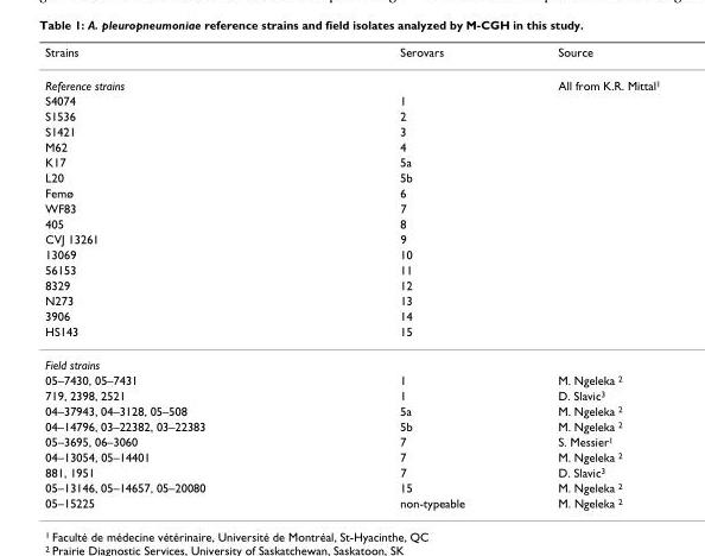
<table><thead><tr><td>Strains</td><td>Serovars</td><td>Source</td></tr></thead><tbody><tr><td>Reference strains</td><td></td><td>All from K.R. Mittal<sup>1</sup></td></tr><tr><td>S4074</td><td>1</td><td></td></tr><tr><td>S1536</td><td>2</td><td></td></tr><tr><td>S1421</td><td>3</td><td></td></tr><tr><td>M62</td><td>4</td><td></td></tr><tr><td>K17</td><td>5a</td><td></td></tr><tr><td>L20</td><td>5b</td><td></td></tr><tr><td>Femø</td><td>6</td><td></td></tr><tr><td>WF83</td><td>7</td><td></td></tr><tr><td>405</td><td>8</td><td></td></tr><tr><td>CVJ 13261</td><td>9</td><td></td></tr><tr><td>13069</td><td>10</td><td></td></tr><tr><td>56153</td><td>11</td><td></td></tr><tr><td>8329</td><td>12</td><td></td></tr><tr><td>N273</td><td>13</td><td></td></tr><tr><td>3906</td><td>14</td><td></td></tr><tr><td>HS143</td><td>15</td><td></td></tr><tr><td colspan="3">Field strains</td></tr><tr><td>05–7430, 05–7431</td><td>1</td><td>M. Ngeleka <sup>2</sup></td></tr><tr><td>719, 2398, 2521</td><td>1</td><td>D. Slavic<sup>3</sup></td></tr><tr><td>04–37943, 04–3128, 05–508</td><td>5a</td><td>M. Ngeleka <sup>2</sup></td></tr><tr><td>04–14796, 03–22382, 03–22383</td><td>5b</td><td>M. Ngeleka <sup>2</sup></td></tr><tr><td>05–3695, 06–3060</td><td>7</td><td>S. Messier<sup>1</sup></td></tr><tr><td>04–13054, 05–14401</td><td>7</td><td>M. Ngeleka <sup>2</sup></td></tr><tr><td>881, 1951</td><td>7</td><td>D. Slavic<sup>3</sup></td></tr><tr><td>05–13146, 05–14657, 05–20080</td><td>15</td><td>M. Ngeleka <sup>2</sup></td></tr><tr><td>05–15225</td><td>non-typeable</td><td>M. Ngeleka <sup>2</sup></td></tr></tbody></table>